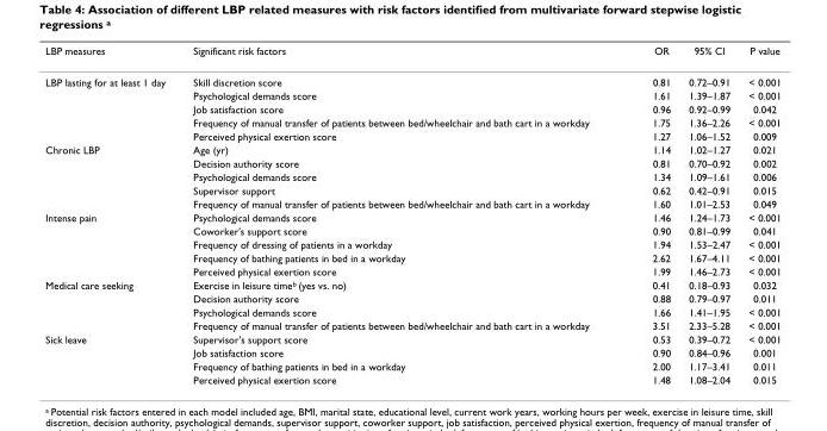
<table><thead><tr><td>LBP measures</td><td>Significant risk factors</td><td>OR</td><td>95% CI</td><td>P value</td></tr></thead><tbody><tr><td rowspan="5">LBP lasting for at least 1 day</td><td>Skill discretion score</td><td>0.81</td><td>0.72–0.91</td><td>&lt; 0.001</td></tr><tr><td>Psychological demands score</td><td>1.61</td><td>1.39–1.87</td><td>&lt; 0.001</td></tr><tr><td>Job satisfaction score</td><td>0.96</td><td>0.92–0.99</td><td>0.042</td></tr><tr><td>Frequency of manual transfer of patients between bed/wheelchair and bath cart in a workday</td><td>1.75</td><td>1.36–2.26</td><td>&lt; 0.001</td></tr><tr><td>Perceived physical exertion score</td><td>1.27</td><td>1.06–1.52</td><td>0.009</td></tr><tr><td rowspan="5">Chronic LBP</td><td>Age (yr)</td><td>1.14</td><td>1.02–1.27</td><td>0.021</td></tr><tr><td>Decision authority score</td><td>0.81</td><td>0.70–0.92</td><td>0.002</td></tr><tr><td>Psychological demands score</td><td>1.34</td><td>1.09–1.61</td><td>0.006</td></tr><tr><td>Supervisor support</td><td>0.62</td><td>0.42–0.91</td><td>0.015</td></tr><tr><td>Frequency of manual transfer of patients between bed/wheelchair and bath cart in a workday</td><td>1.60</td><td>1.01–2.53</td><td>0.049</td></tr><tr><td rowspan="5">Intense pain</td><td>Psychological demands score</td><td>1.46</td><td>1.24–1.73</td><td>&lt; 0.001</td></tr><tr><td>Coworker&#x27;s support score</td><td>0.90</td><td>0.81–0.99</td><td>0.041</td></tr><tr><td>Frequency of dressing of patients in a workday</td><td>1.94</td><td>1.53–2.47</td><td>&lt; 0.001</td></tr><tr><td>Frequency of bathing patients in bed in a workday</td><td>2.62</td><td>1.67–4.11</td><td>&lt; 0.001</td></tr><tr><td>Perceived physical exertion score</td><td>1.99</td><td>1.46–2.73</td><td>&lt; 0.001</td></tr><tr><td rowspan="4">Medical care seeking</td><td>Exercise in leisure time<sup>b</sup> (yes vs. no)</td><td>0.41</td><td>0.18–0.93</td><td>0.032</td></tr><tr><td>Decision authority score</td><td>0.88</td><td>0.79–0.97</td><td>0.011</td></tr><tr><td>Psychological demands score</td><td>1.66</td><td>1.41–1.95</td><td>&lt; 0.001</td></tr><tr><td>Frequency of manual transfer of patients between bed/wheelchair and bath cart in a workday</td><td>3.51</td><td>2.33–5.28</td><td>&lt; 0.001</td></tr><tr><td rowspan="4">Sick leave</td><td>Supervisor&#x27;s support score</td><td>0.53</td><td>0.39–0.72</td><td>&lt; 0.001</td></tr><tr><td>Job satisfaction score</td><td>0.90</td><td>0.84–0.96</td><td>0.001</td></tr><tr><td>Frequency of bathing patients in bed in a workday</td><td>2.00</td><td>1.17–3.41</td><td>0.011</td></tr><tr><td>Perceived physical exertion score</td><td>1.48</td><td>1.08–2.04</td><td>0.015</td></tr></tbody></table>